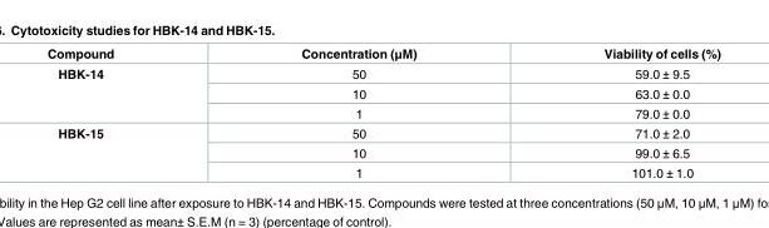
<table><thead><tr><td>Compound</td><td>Concentration (μM)</td><td>Viability of cells (%)</td></tr></thead><tbody><tr><td rowspan="3">HBK-14</td><td>50</td><td>59.0 ± 9.5</td></tr><tr><td>10</td><td>63.0 ± 0.0</td></tr><tr><td>1</td><td>79.0 ± 0.0</td></tr><tr><td rowspan="3">HBK-15</td><td>50</td><td>71.0 ± 2.0</td></tr><tr><td>10</td><td>99.0 ± 6.5</td></tr><tr><td>1</td><td>101.0 ± 1.0</td></tr></tbody></table>